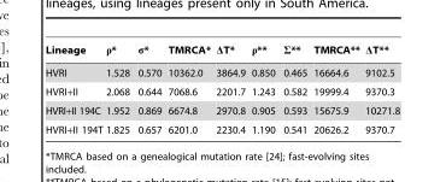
<table><thead><tr><td>Lineage</td><td>ρ*</td><td>σ*</td><td>TMRCA*</td><td>ΔT*</td><td>ρ**</td><td>Σ**</td><td>TMRCA**</td><td>ΔT**</td></tr></thead><tbody><tr><td>HVRI</td><td>1.528</td><td>0.570</td><td>10362.0</td><td>3864.9</td><td>0.850</td><td>0.465</td><td>16664.6</td><td>9102.5</td></tr><tr><td>HVRI+II</td><td>2.068</td><td>0.644</td><td>7068.6</td><td>2201.7</td><td>1.243</td><td>0.582</td><td>19999.4</td><td>9370.3</td></tr><tr><td>HVRI+II 194C</td><td>1.952</td><td>0.869</td><td>6674.8</td><td>2970.8</td><td>0.905</td><td>0.593</td><td>15675.9</td><td>10271.8</td></tr><tr><td>HVRI+II 194T</td><td>1.825</td><td>0.657</td><td>6201.0</td><td>2230.4</td><td>1.190</td><td>0.541</td><td>20626.2</td><td>9370.7</td></tr></tbody></table>